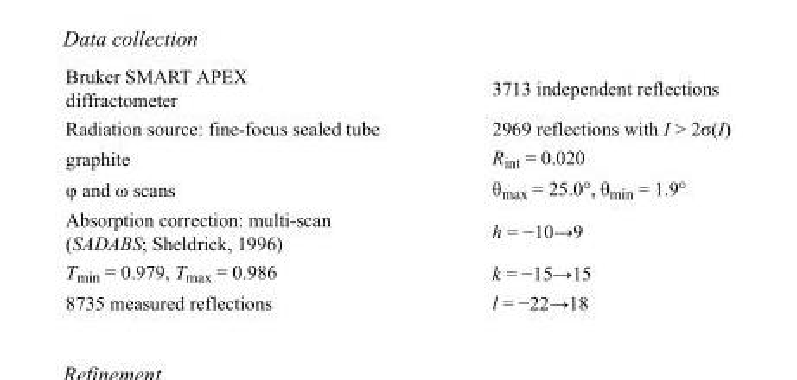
<table><tbody><tr><td>Bruker SMART APEX diffractometer</td><td>3713 independent reflections</td></tr><tr><td>Radiation source: fine-focus sealed tube</td><td>2969 reflections with I &gt; 2σ(I)</td></tr><tr><td>graphite</td><td>R<sub>int</sub> = 0.020</td></tr><tr><td>φ and ω scans</td><td>θ<sub>max</sub> = 25.0°, θ<sub>min</sub> = 1.9°</td></tr><tr><td>Absorption correction: multi-scan (SADABS; Sheldrick, 1996)</td><td>h = −10→9</td></tr><tr><td>T<sub>min</sub> = 0.979, T<sub>max</sub> = 0.986</td><td>k = −15→15</td></tr><tr><td>8735 measured reflections</td><td>l = −22→18</td></tr></tbody></table>